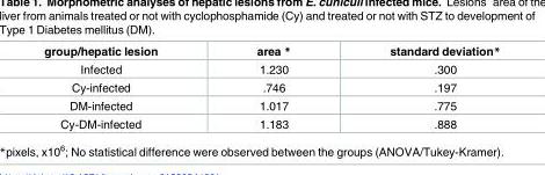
<table><thead><tr><td>group/hepatic lesion</td><td>area *</td><td>standard deviation*</td></tr></thead><tbody><tr><td>Infected</td><td>1.230</td><td>.300</td></tr><tr><td>Cy-infected</td><td>.746</td><td>.197</td></tr><tr><td>DM-infected</td><td>1.017</td><td>.775</td></tr><tr><td>Cy-DM-infected</td><td>1.183</td><td>.888</td></tr></tbody></table>